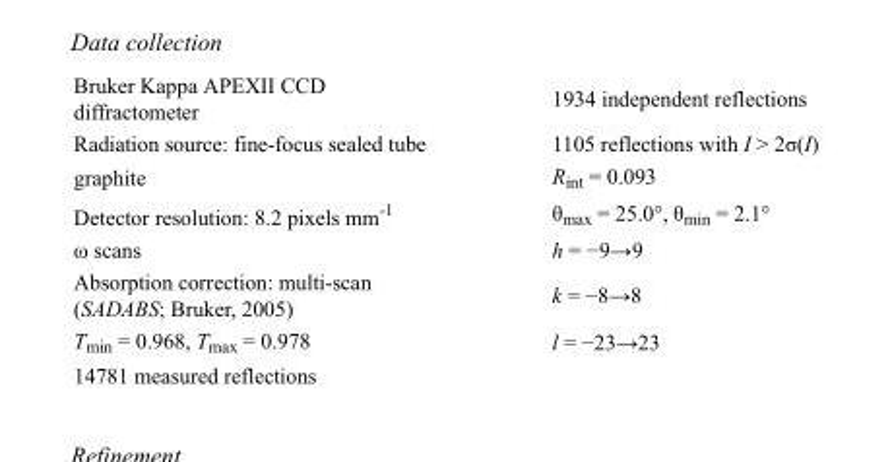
<table><tbody><tr><td>Bruker Kappa APEXII CCD diffractometer</td><td>1934 independent reflections</td></tr><tr><td>Radiation source: fine-focus sealed tube</td><td>1105 reflections with I &gt; 2σ(I)</td></tr><tr><td>graphite</td><td>R<sub>int</sub> = 0.093</td></tr><tr><td>Detector resolution: 8.2 pixels mm<sup>-1</sup></td><td>θ<sub>max</sub> = 25.0°, θ<sub>min</sub> = 2.1°</td></tr><tr><td>ω scans</td><td>h = −9→9</td></tr><tr><td>Absorption correction: multi-scan (SADABS; Bruker, 2005)</td><td>k = −8→8</td></tr><tr><td>T<sub>min</sub> = 0.968, T<sub>max</sub> = 0.978</td><td>l = −23→23</td></tr><tr><td>14781 measured reflections</td><td></td></tr></tbody></table>